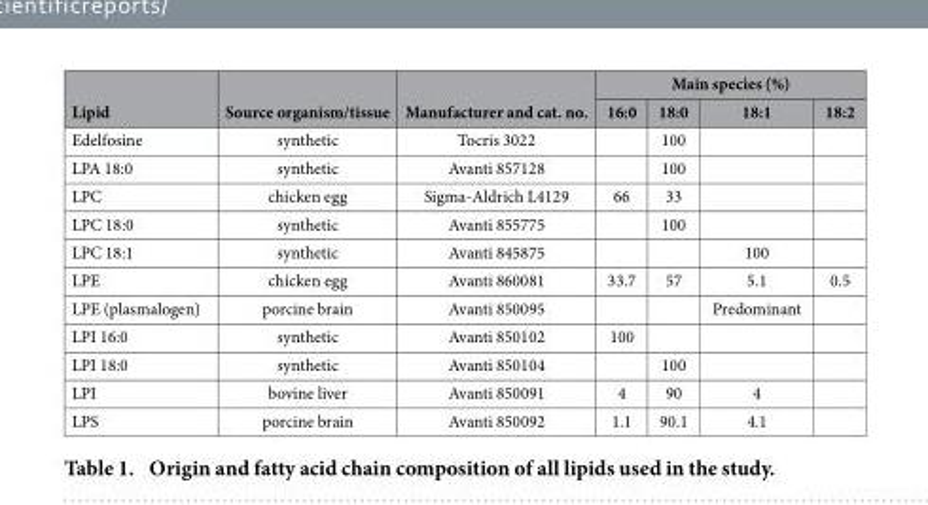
<table><thead><tr><td rowspan="2">Lipid</td><td rowspan="2">Source organism/tissue</td><td rowspan="2">Manufacturer and cat. no.</td><td colspan="4">Main species (%)</td></tr><tr><td>16:0</td><td>18:0</td><td>18:1</td><td>18:2</td></tr></thead><tbody><tr><td>Edelfosine</td><td>synthetic</td><td>Tocris 3022</td><td></td><td>100</td><td></td><td></td></tr><tr><td>LPA 18:0</td><td>synthetic</td><td>Avanti 857128</td><td></td><td>100</td><td></td><td></td></tr><tr><td>LPC</td><td>chicken egg</td><td>Sigma-Aldrich L4129</td><td>66</td><td>33</td><td></td><td></td></tr><tr><td>LPC 18:0</td><td>synthetic</td><td>Avanti 855775</td><td></td><td>100</td><td></td><td></td></tr><tr><td>LPC 18:1</td><td>synthetic</td><td>Avanti 845875</td><td></td><td></td><td>100</td><td></td></tr><tr><td>LPE</td><td>chicken egg</td><td>Avanti 860081</td><td>33.7</td><td>57</td><td>5.1</td><td>0.5</td></tr><tr><td>LPE (plasmalogen)</td><td>porcine brain</td><td>Avanti 850095</td><td></td><td></td><td>Predominant</td><td></td></tr><tr><td>LPI 16:0</td><td>synthetic</td><td>Avanti 850102</td><td>100</td><td></td><td></td><td></td></tr><tr><td>LPI 18:0</td><td>synthetic</td><td>Avanti 850104</td><td></td><td>100</td><td></td><td></td></tr><tr><td>LPI</td><td>bovine liver</td><td>Avanti 850091</td><td>4</td><td>90</td><td>4</td><td></td></tr><tr><td>LPS</td><td>porcine brain</td><td>Avanti 850092</td><td>1.1</td><td>90.1</td><td>4.1</td><td></td></tr></tbody></table>